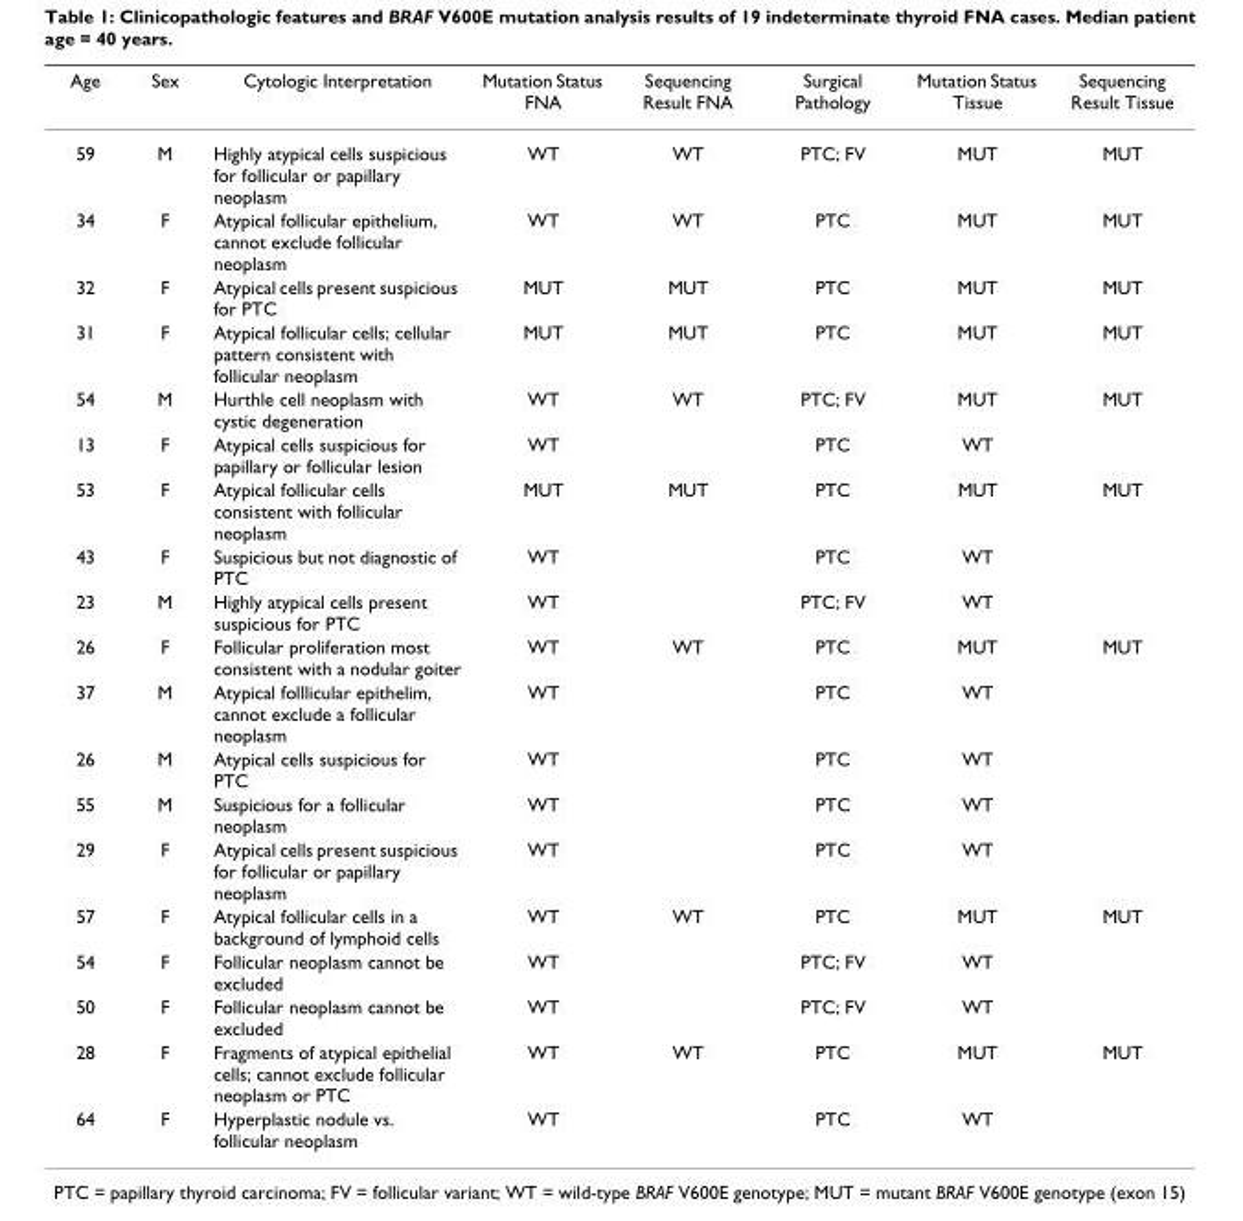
<table><thead><tr><td>Age</td><td>Sex</td><td>Cytologic Interpretation</td><td>Mutation Status FNA</td><td>Sequencing Result FNA</td><td>Surgical Pathology</td><td>Mutation Status Tissue</td><td>Sequencing Result Tissue</td></tr></thead><tbody><tr><td>59</td><td>M</td><td>Highly atypical cells suspicious for follicular or papillary neoplasm</td><td>WT</td><td>WT</td><td>PTC; FV</td><td>MUT</td><td>MUT</td></tr><tr><td>34</td><td>F</td><td>Atypical follicular epithelium, cannot exclude follicular neoplasm</td><td>WT</td><td>WT</td><td>PTC</td><td>MUT</td><td>MUT</td></tr><tr><td>32</td><td>F</td><td>Atypical cells present suspicious for PTC</td><td>MUT</td><td>MUT</td><td>PTC</td><td>MUT</td><td>MUT</td></tr><tr><td>31</td><td>F</td><td>Atypical follicular cells; cellular pattern consistent with follicular neoplasm</td><td>MUT</td><td>MUT</td><td>PTC</td><td>MUT</td><td>MUT</td></tr><tr><td>54</td><td>M</td><td>Hurthle cell neoplasm with cystic degeneration</td><td>WT</td><td>WT</td><td>PTC; FV</td><td>MUT</td><td>MUT</td></tr><tr><td>13</td><td>F</td><td>Atypical cells suspicious for papillary or follicular lesion</td><td>WT</td><td></td><td>PTC</td><td>WT</td><td></td></tr><tr><td>53</td><td>F</td><td>Atypical follicular cells consistent with follicular neoplasm</td><td>MUT</td><td>MUT</td><td>PTC</td><td>MUT</td><td>MUT</td></tr><tr><td>43</td><td>F</td><td>Suspicious but not diagnostic of PTC</td><td>WT</td><td></td><td>PTC</td><td>WT</td><td></td></tr><tr><td>23</td><td>M</td><td>Highly atypical cells present suspicious for PTC</td><td>WT</td><td></td><td>PTC; FV</td><td>WT</td><td></td></tr><tr><td>26</td><td>F</td><td>Follicular proliferation most consistent with a nodular goiter</td><td>WT</td><td>WT</td><td>PTC</td><td>MUT</td><td>MUT</td></tr><tr><td>37</td><td>M</td><td>Atypical folllicular epithelim, cannot exclude a follicular neoplasm</td><td>WT</td><td></td><td>PTC</td><td>WT</td><td></td></tr><tr><td>26</td><td>M</td><td>Atypical cells suspicious for PTC</td><td>WT</td><td></td><td>PTC</td><td>WT</td><td></td></tr><tr><td>55</td><td>M</td><td>Suspicious for a follicular neoplasm</td><td>WT</td><td></td><td>PTC</td><td>WT</td><td></td></tr><tr><td>29</td><td>F</td><td>Atypical cells present suspicious for follicular or papillary neoplasm</td><td>WT</td><td></td><td>PTC</td><td>WT</td><td></td></tr><tr><td>57</td><td>F</td><td>Atypical follicular cells in a background of lymphoid cells</td><td>WT</td><td>WT</td><td>PTC</td><td>MUT</td><td>MUT</td></tr><tr><td>54</td><td>F</td><td>Follicular neoplasm cannot be excluded</td><td>WT</td><td></td><td>PTC; FV</td><td>WT</td><td></td></tr><tr><td>50</td><td>F</td><td>Follicular neoplasm cannot be excluded</td><td>WT</td><td></td><td>PTC; FV</td><td>WT</td><td></td></tr><tr><td>28</td><td>F</td><td>Fragments of atypical epithelial cells; cannot exclude follicular neoplasm or PTC</td><td>WT</td><td>WT</td><td>PTC</td><td>MUT</td><td>MUT</td></tr><tr><td>64</td><td>F</td><td>Hyperplastic nodule vs. follicular neoplasm</td><td>WT</td><td></td><td>PTC</td><td>WT</td><td></td></tr></tbody></table>